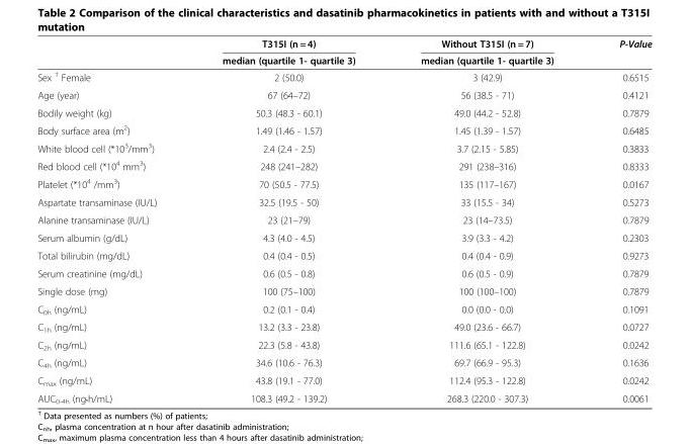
<table><thead><tr><td rowspan="2"></td><td rowspan="2">T315I (n = 4) median (quartile 1- quartile 3)</td><td rowspan="2">Without T315I (n = 7) median (quartile 1- quartile 3)</td><td rowspan="2">P-Value</td></tr><tr></tr></thead><tbody><tr><td>Sex <sup>†</sup> Female</td><td>2 (50.0)</td><td>3 (42.9)</td><td>0.6515</td></tr><tr><td>Age (year)</td><td>67 (64–72)</td><td>56 (38.5 - 71)</td><td>0.4121</td></tr><tr><td>Bodily weight (kg)</td><td>50.3 (48.3 - 60.1)</td><td>49.0 (44.2 - 52.8)</td><td>0.7879</td></tr><tr><td>Body surface area (m<sup>2</sup>)</td><td>1.49 (1.46 - 1.57)</td><td>1.45 (1.39 - 1.57)</td><td>0.6485</td></tr><tr><td>White blood cell (*10<sup>3</sup>/mm<sup>3</sup>)</td><td>2.4 (2.4 - 2.5)</td><td>3.7 (2.15 - 5.85)</td><td>0.3833</td></tr><tr><td>Red blood cell (*10<sup>4</sup> mm<sup>3</sup>)</td><td>248 (241–282)</td><td>291 (238–316)</td><td>0.8333</td></tr><tr><td>Platelet (*10<sup>4</sup> /mm<sup>3</sup>)</td><td>70 (50.5 - 77.5)</td><td>135 (117–167)</td><td>0.0167</td></tr><tr><td>Aspartate transaminase (IU/L)</td><td>32.5 (19.5 - 50)</td><td>33 (15.5 - 34)</td><td>0.5273</td></tr><tr><td>Alanine transaminase (IU/L)</td><td>23 (21–79)</td><td>23 (14–73.5)</td><td>0.7879</td></tr><tr><td>Serum albumin (g/dL)</td><td>4.3 (4.0 - 4.5)</td><td>3.9 (3.3 - 4.2)</td><td>0.2303</td></tr><tr><td>Total bilirubin (mg/dL)</td><td>0.4 (0.4 - 0.5)</td><td>0.4 (0.4 - 0.9)</td><td>0.9273</td></tr><tr><td>Serum creatinine (mg/dL)</td><td>0.6 (0.5 - 0.8)</td><td>0.6 (0.5 - 0.9)</td><td>0.7879</td></tr><tr><td>Single dose (mg)</td><td>100 (75–100)</td><td>100 (100–100)</td><td>0.7879</td></tr><tr><td>C<sub>0h</sub> (ng/mL)</td><td>0.2 (0.1 - 0.4)</td><td>0.0 (0.0 - 0.0)</td><td>0.1091</td></tr><tr><td>C<sub>1h</sub> (ng/mL)</td><td>13.2 (3.3 - 23.8)</td><td>49.0 (23.6 - 66.7)</td><td>0.0727</td></tr><tr><td>C<sub>2h</sub> (ng/mL)</td><td>22.3 (5.8 - 43.8)</td><td>111.6 (65.1 - 122.8)</td><td>0.0242</td></tr><tr><td>C<sub>4h</sub> (ng/mL)</td><td>34.6 (10.6 - 76.3)</td><td>69.7 (66.9 - 95.3)</td><td>0.1636</td></tr><tr><td>C<sub>max</sub> (ng/mL)</td><td>43.8 (19.1 - 77.0)</td><td>112.4 (95.3 - 122.8)</td><td>0.0242</td></tr><tr><td>AUC0-4h (ng•h/mL)</td><td>108.3 (49.2 - 139.2)</td><td>268.3 (220.0 - 307.3)</td><td>0.0061</td></tr></tbody></table>